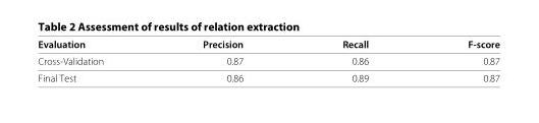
<table><thead><tr><td>Evaluation</td><td>Precision</td><td>Recall</td><td>F-score</td></tr></thead><tbody><tr><td>Cross-Validation</td><td>0.87</td><td>0.86</td><td>0.87</td></tr><tr><td>Final Test</td><td>0.86</td><td>0.89</td><td>0.87</td></tr></tbody></table>